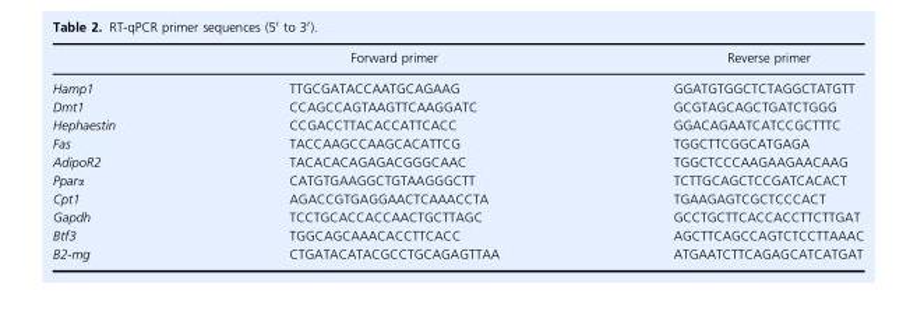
<table><thead><tr><td></td><td>Forward primer</td><td>Reverse primer</td></tr></thead><tbody><tr><td>Hamp1</td><td>TTGCGATACCAATGCAGAAG</td><td>GGATGTGGCTCTAGGCTATGTT</td></tr><tr><td>Dmt1</td><td>CCAGCCAGTAAGTTCAAGGATC</td><td>GCGTAGCAGCTGATCTGGG</td></tr><tr><td>Hephaestin</td><td>CCGACCTTACACCATTCACC</td><td>GGACAGAATCATCCGCTTTC</td></tr><tr><td>Fas</td><td>TACCAAGCCAAGCACATTCG</td><td>TGGCTTCGGCATGAGA</td></tr><tr><td>AdipoR2</td><td>TACACACAGAGACGGGCAAC</td><td>TGGCTCCCAAGAAGAACAAG</td></tr><tr><td>Pparα</td><td>CATGTGAAGGCTGTAAGGGCTT</td><td>TCTTGCAGCTCCGATCACACT</td></tr><tr><td>Cpt1</td><td>AGACCGTGAGGAACTCAAACCTA</td><td>TGAAGAGTCGCTCCCACT</td></tr><tr><td>Gapdh</td><td>TCCTGCACCACCAACTGCTTAGC</td><td>GCCTGCTTCACCACCTTCTTGAT</td></tr><tr><td>Btf3</td><td>TGGCAGCAAACACCTTCACC</td><td>AGCTTCAGCCAGTCTCCTTAAAC</td></tr><tr><td>B2-mg</td><td>CTGATACATACGCCTGCAGAGTTAA</td><td>ATGAATCTTCAGAGCATCATGAT</td></tr></tbody></table>